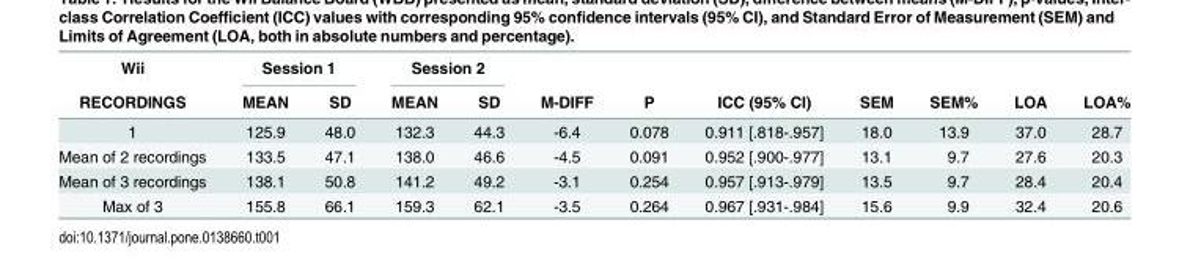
<table><thead><tr><td rowspan="2">Wii RECORDINGS</td><td colspan="2">Session 1</td><td colspan="2">Session 2</td><td rowspan="2">M-DIFF</td><td rowspan="2">P</td><td rowspan="2">ICC (95% CI)</td><td rowspan="2">SEM</td><td rowspan="2">SEM%</td><td rowspan="2">LOA</td><td rowspan="2">LOA%</td></tr><tr><td>MEAN</td><td>SD</td><td>MEAN</td><td>SD</td></tr></thead><tbody><tr><td>1</td><td>125.9</td><td>48.0</td><td>132.3</td><td>44.3</td><td>-6.4</td><td>0.078</td><td>0.911 [.818-.957]</td><td>18.0</td><td>13.9</td><td>37.0</td><td>28.7</td></tr><tr><td>Mean of 2 recordings</td><td>133.5</td><td>47.1</td><td>138.0</td><td>46.6</td><td>-4.5</td><td>0.091</td><td>0.952 [.900-.977]</td><td>13.1</td><td>9.7</td><td>27.6</td><td>20.3</td></tr><tr><td>Mean of 3 recordings</td><td>138.1</td><td>50.8</td><td>141.2</td><td>49.2</td><td>-3.1</td><td>0.254</td><td>0.957 [.913-.979]</td><td>13.5</td><td>9.7</td><td>28.4</td><td>20.4</td></tr><tr><td>Max of 3</td><td>155.8</td><td>66.1</td><td>159.3</td><td>62.1</td><td>-3.5</td><td>0.264</td><td>0.967 [.931-.984]</td><td>15.6</td><td>9.9</td><td>32.4</td><td>20.6</td></tr></tbody></table>